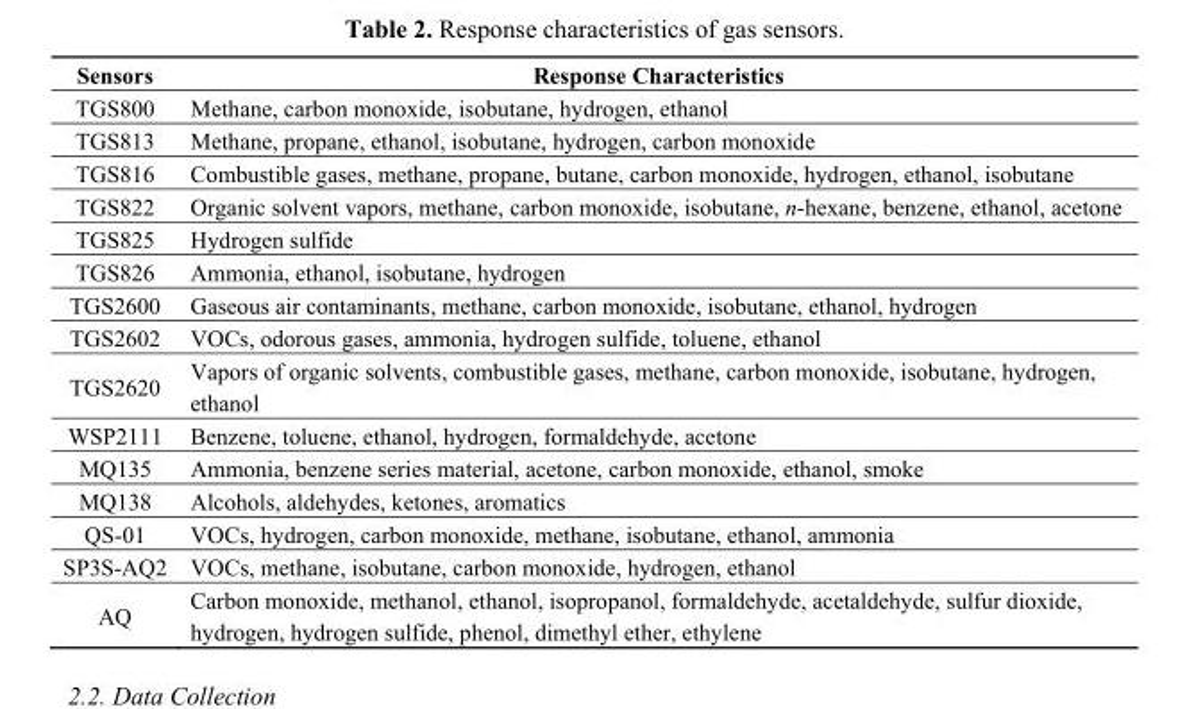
<table><thead><tr><td>Sensors</td><td>Response Characteristics</td></tr></thead><tbody><tr><td>TGS800</td><td>Methane, carbon monoxide, isobutane, hydrogen, ethanol</td></tr><tr><td>TGS813</td><td>Methane, propane, ethanol, isobutane, hydrogen, carbon monoxide</td></tr><tr><td>TGS816</td><td>Combustible gases, methane, propane, butane, carbon monoxide, hydrogen, ethanol, isobutane</td></tr><tr><td>TGS822</td><td>Organic solvent vapors, methane, carbon monoxide, isobutane, n-hexane, benzene, ethanol, acetone</td></tr><tr><td>TGS825</td><td>Hydrogen sulfide</td></tr><tr><td>TGS826</td><td>Ammonia, ethanol, isobutane, hydrogen</td></tr><tr><td>TGS2600</td><td>Gaseous air contaminants, methane, carbon monoxide, isobutane, ethanol, hydrogen</td></tr><tr><td>TGS2602</td><td>VOCs, odorous gases, ammonia, hydrogen sulfide, toluene, ethanol</td></tr><tr><td>TGS2620</td><td>Vapors of organic solvents, combustible gases, methane, carbon monoxide, isobutane, hydrogen, ethanol</td></tr><tr><td>WSP2111</td><td>Benzene, toluene, ethanol, hydrogen, formaldehyde, acetone</td></tr><tr><td>MQ135</td><td>Ammonia, benzene series material, acetone, carbon monoxide, ethanol, smoke</td></tr><tr><td>MQ138</td><td>Alcohols, aldehydes, ketones, aromatics</td></tr><tr><td>QS-01</td><td>VOCs, hydrogen, carbon monoxide, methane, isobutane, ethanol, ammonia</td></tr><tr><td>SP3S-AQ2</td><td>VOCs, methane, isobutane, carbon monoxide, hydrogen, ethanol</td></tr><tr><td>AQ</td><td>Carbon monoxide, methanol, ethanol, isopropanol, formaldehyde, acetaldehyde, sulfur dioxide, hydrogen, hydrogen sulfide, phenol, dimethyl ether, ethylene</td></tr></tbody></table>